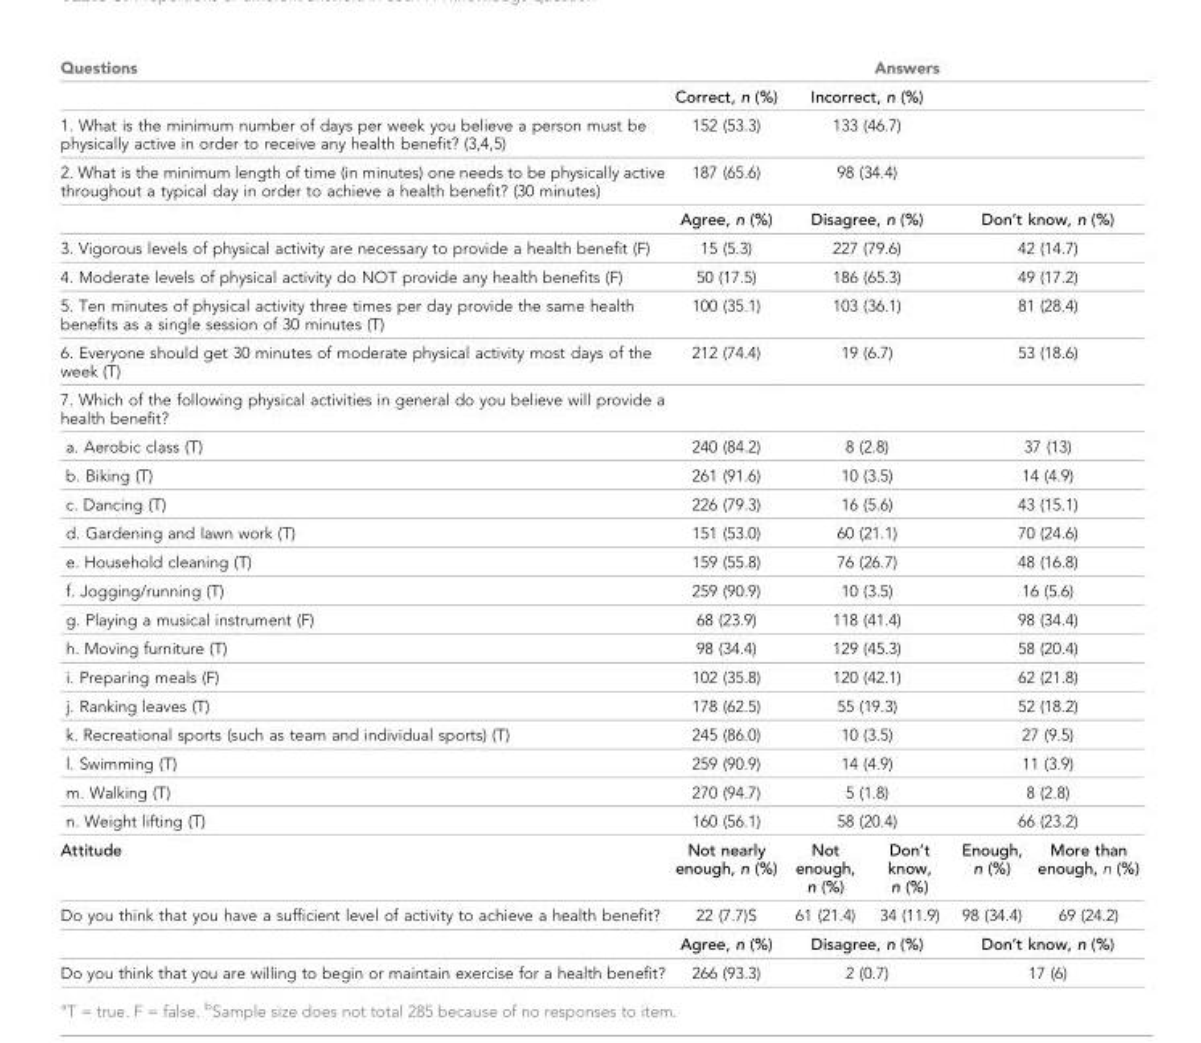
<table><thead><tr><td>Questions</td><td colspan="5">Answers</td></tr></thead><tbody><tr><td></td><td>Correct, n (%)</td><td colspan="2">Incorrect, n (%)</td><td colspan="2"></td></tr><tr><td>1. What is the minimum number of days per week you believe a person must be physically active in order to receive any health benefit? (3,4,5)</td><td>152 (53.3)</td><td colspan="2">133 (46.7)</td><td colspan="2"></td></tr><tr><td rowspan="2">2. What is the minimum length of time (in minutes) one needs to be physically active throughout a typical day in order to achieve a health benefit? (30 minutes)</td><td>187 (65.6)</td><td colspan="2">98 (34.4)</td><td colspan="2"></td></tr><tr><td>Agree, n (%)</td><td colspan="2">Disagree, n (%)</td><td colspan="2">Don’t know, n (%)</td></tr><tr><td>3. Vigorous levels of physical activity are necessary to provide a health benefit (F)</td><td>15 (5.3)</td><td colspan="2">227 (79.6)</td><td colspan="2">42 (14.7)</td></tr><tr><td>4. Moderate levels of physical activity do NOT provide any health benefits (F)</td><td>50 (17.5)</td><td colspan="2">186 (65.3)</td><td colspan="2">49 (17.2)</td></tr><tr><td>5. Ten minutes of physical activity three times per day provide the same health benefits as a single session of 30 minutes (T)</td><td>100 (35.1)</td><td colspan="2">103 (36.1)</td><td colspan="2">81 (28.4)</td></tr><tr><td>6. Everyone should get 30 minutes of moderate physical activity most days of the week (T)</td><td>212 (74.4)</td><td colspan="2">19 (6.7)</td><td colspan="2">53 (18.6)</td></tr><tr><td colspan="6">7. Which of the following physical activities in general do you believe will provide a health benefit?</td></tr><tr><td>a. Aerobic class (T)</td><td>240 (84.2)</td><td colspan="2">8 (2.8)</td><td colspan="2">37 (13)</td></tr><tr><td>b. Biking (T)</td><td>261 (91.6)</td><td colspan="2">10 (3.5)</td><td colspan="2">14 (4.9)</td></tr><tr><td>c. Dancing (T)</td><td>226 (79.3)</td><td colspan="2">16 (5.6)</td><td colspan="2">43 (15.1)</td></tr><tr><td>d. Gardening and lawn work (T)</td><td>151 (53.0)</td><td colspan="2">60 (21.1)</td><td colspan="2">70 (24.6)</td></tr><tr><td>e. Household cleaning (T)</td><td>159 (55.8)</td><td colspan="2">76 (26.7)</td><td colspan="2">48 (16.8)</td></tr><tr><td>f. Jogging/running (T)</td><td>259 (90.9)</td><td colspan="2">10 (3.5)</td><td colspan="2">16 (5.6)</td></tr><tr><td>g. Playing a musical instrument (F)</td><td>68 (23.9)</td><td colspan="2">118 (41.4)</td><td colspan="2">98 (34.4)</td></tr><tr><td>h. Moving furniture (T)</td><td>98 (34.4)</td><td colspan="2">129 (45.3)</td><td colspan="2">58 (20.4)</td></tr><tr><td>i. Preparing meals (F)</td><td>102 (35.8)</td><td colspan="2">120 (42.1)</td><td colspan="2">62 (21.8)</td></tr><tr><td>j. Ranking leaves (T)</td><td>178 (62.5)</td><td colspan="2">55 (19.3)</td><td colspan="2">52 (18.2)</td></tr><tr><td>k. Recreational sports (such as team and individual sports) (T)</td><td>245 (86.0)</td><td colspan="2">10 (3.5)</td><td colspan="2">27 (9.5)</td></tr><tr><td>l. Swimming (T)</td><td>259 (90.9)</td><td colspan="2">14 (4.9)</td><td colspan="2">11 (3.9)</td></tr><tr><td>m. Walking (T)</td><td>270 (94.7)</td><td colspan="2">5 (1.8)</td><td colspan="2">8 (2.8)</td></tr><tr><td>n. Weight lifting (T)</td><td>160 (56.1)</td><td colspan="2">58 (20.4)</td><td colspan="2">66 (23.2)</td></tr><tr><td>Attitude</td><td>Not nearly enough, n (%)</td><td>Not enough, n (%)</td><td>Don’t know, n (%)</td><td>Enough, n (%)</td><td>More than enough, n (%)</td></tr><tr><td rowspan="2">Do you think that you have a sufficient level of activity to achieve a health benefit?</td><td>22 (7.7)S</td><td>61 (21.4)</td><td>34 (11.9)</td><td>98 (34.4)</td><td>69 (24.2)</td></tr><tr><td>Agree, n (%)</td><td colspan="2">Disagree, n (%)</td><td colspan="2">Don’t know, n (%)</td></tr><tr><td>Do you think that you are willing to begin or maintain exercise for a health benefit?</td><td>266 (93.3)</td><td colspan="2">2 (0.7)</td><td colspan="2">17 (6)</td></tr></tbody></table>